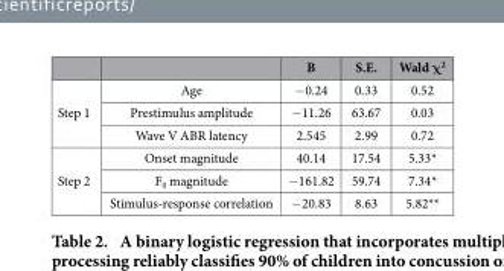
<table><thead><tr><td></td><td></td><td>B</td><td>S.E.</td><td>Wald χ<sup>2</sup></td></tr></thead><tbody><tr><td rowspan="3">Step 1</td><td>Age</td><td>− 0.24</td><td>0.33</td><td>0.52</td></tr><tr><td>Prestimulus amplitude</td><td>− 11.26</td><td>63.67</td><td>0.03</td></tr><tr><td>Wave V ABR latency</td><td>2.545</td><td>2.99</td><td>0.72</td></tr><tr><td rowspan="3">Step 2</td><td>Onset magnitude</td><td>40.14</td><td>17.54</td><td>5.33*</td></tr><tr><td>F<sub>0</sub> magnitude</td><td>− 161.82</td><td>59.74</td><td>7.34*</td></tr><tr><td>Stimulus-response correlation</td><td>− 20.83</td><td>8.63</td><td>5.82**</td></tr></tbody></table>